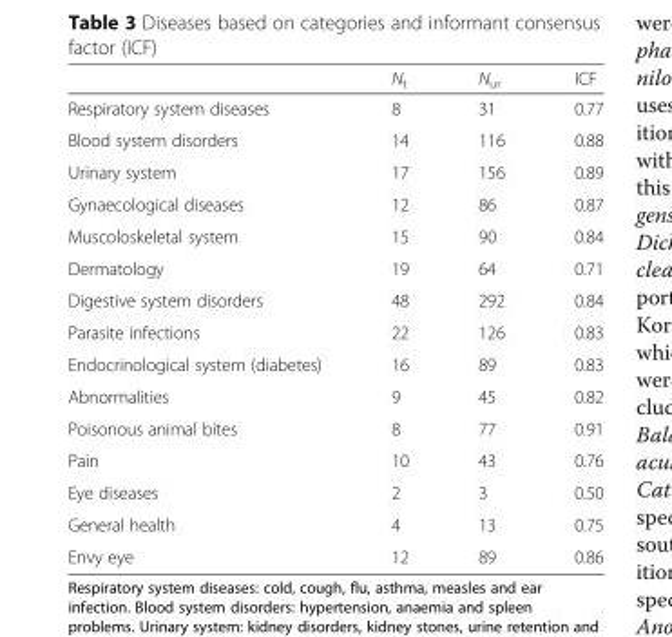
<table><thead><tr><td></td><td>N<sub>t</sub></td><td>N<sub>ur</sub></td><td>ICF</td></tr></thead><tbody><tr><td>Respiratory system diseases</td><td>8</td><td>31</td><td>0.77</td></tr><tr><td>Blood system disorders</td><td>14</td><td>116</td><td>0.88</td></tr><tr><td>Urinary system</td><td>17</td><td>156</td><td>0.89</td></tr><tr><td>Gynaecological diseases</td><td>12</td><td>86</td><td>0.87</td></tr><tr><td>Muscoloskeletal system</td><td>15</td><td>90</td><td>0.84</td></tr><tr><td>Dermatology</td><td>19</td><td>64</td><td>0.71</td></tr><tr><td>Digestive system disorders</td><td>48</td><td>292</td><td>0.84</td></tr><tr><td>Parasite infections</td><td>22</td><td>126</td><td>0.83</td></tr><tr><td>Endocrinological system (diabetes)</td><td>16</td><td>89</td><td>0.83</td></tr><tr><td>Abnormalities</td><td>9</td><td>45</td><td>0.82</td></tr><tr><td>Poisonous animal bites</td><td>8</td><td>77</td><td>0.91</td></tr><tr><td>Pain</td><td>10</td><td>43</td><td>0.76</td></tr><tr><td>Eye diseases</td><td>2</td><td>3</td><td>0.50</td></tr><tr><td>General health</td><td>4</td><td>13</td><td>0.75</td></tr><tr><td>Envy eye</td><td>12</td><td>89</td><td>0.86</td></tr></tbody></table>